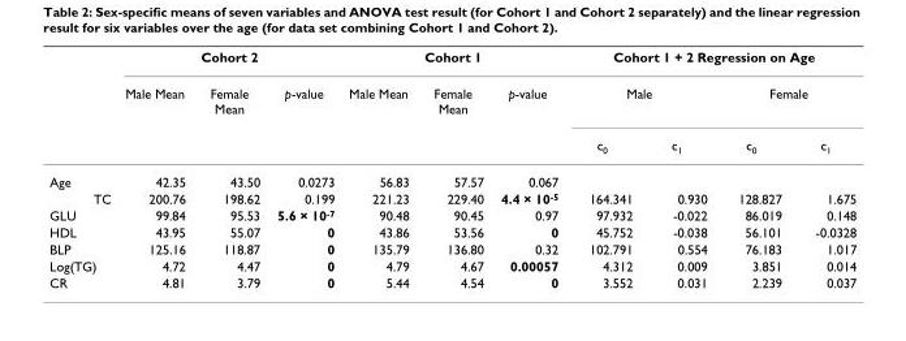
<table><thead><tr><td rowspan="3"></td><td colspan="3">Cohort 2</td><td colspan="3">Cohort 1</td><td colspan="4">Cohort 1 + 2 Regression on Age</td></tr><tr><td rowspan="2">Male Mean</td><td rowspan="2">Female Mean</td><td rowspan="2">p-value</td><td rowspan="2">Male Mean</td><td rowspan="2">Female Mean</td><td rowspan="2">p-value</td><td colspan="2">Male</td><td colspan="2">Female</td></tr><tr><td>c0</td><td>c1</td><td>c0</td><td>c1</td></tr></thead><tbody><tr><td>Age</td><td>42.35</td><td>43.50</td><td>0.0273</td><td>56.83</td><td>57.57</td><td>0.067</td><td></td><td></td><td></td><td></td></tr><tr><td>TC</td><td>200.76</td><td>198.62</td><td>0.199</td><td>221.23</td><td>229.40</td><td>4.4 × 10-5</td><td>164.341</td><td>0.930</td><td>128.827</td><td>1.675</td></tr><tr><td>GLU</td><td>99.84</td><td>95.53</td><td>5.6 × 10-7</td><td>90.48</td><td>90.45</td><td>0.97</td><td>97.932</td><td>-0.022</td><td>86.019</td><td>0.148</td></tr><tr><td>HDL</td><td>43.95</td><td>55.07</td><td>0</td><td>43.86</td><td>53.56</td><td>0</td><td>45.752</td><td>-0.038</td><td>56.101</td><td>-0.0328</td></tr><tr><td>BLP</td><td>125.16</td><td>118.87</td><td>0</td><td>135.79</td><td>136.80</td><td>0.32</td><td>102.791</td><td>0.554</td><td>76.183</td><td>1.017</td></tr><tr><td>Log(TG)</td><td>4.72</td><td>4.47</td><td>0</td><td>4.79</td><td>4.67</td><td>0.00057</td><td>4.312</td><td>0.009</td><td>3.851</td><td>0.014</td></tr><tr><td>CR</td><td>4.81</td><td>3.79</td><td>0</td><td>5.44</td><td>4.54</td><td>0</td><td>3.552</td><td>0.031</td><td>2.239</td><td>0.037</td></tr></tbody></table>